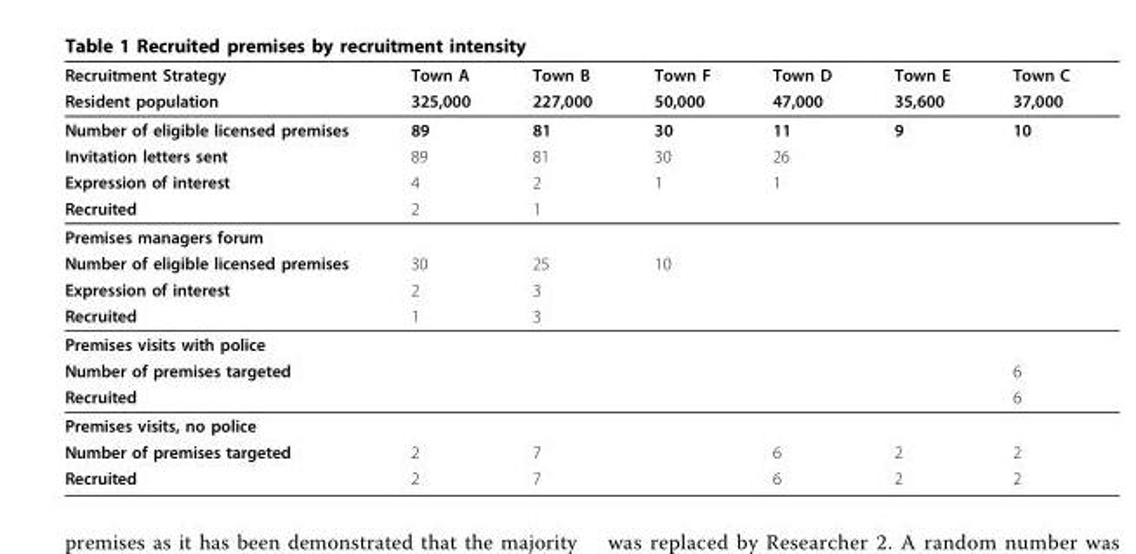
<table><thead><tr><td rowspan="2">Recruitment Strategy Resident population</td><td rowspan="2">Town A 325,000</td><td rowspan="2">Town B 227,000</td><td rowspan="2">Town F 50,000</td><td rowspan="2">Town D 47,000</td><td rowspan="2">Town E 35,600</td><td rowspan="2">Town C 37,000</td></tr><tr></tr></thead><tbody><tr><td>Number of eligible licensed premises</td><td>89</td><td>81</td><td>30</td><td>11</td><td>9</td><td>10</td></tr><tr><td>Invitation letters sent</td><td>89</td><td>81</td><td>30</td><td>26</td><td></td><td></td></tr><tr><td>Expression of interest</td><td>4</td><td>2</td><td>1</td><td>1</td><td></td><td></td></tr><tr><td>Recruited</td><td>2</td><td>1</td><td></td><td></td><td></td><td></td></tr><tr><td colspan="7">Premises managers forum</td></tr><tr><td>Number of eligible licensed premises</td><td>30</td><td>25</td><td>10</td><td></td><td></td><td></td></tr><tr><td>Expression of interest</td><td>2</td><td>3</td><td></td><td></td><td></td><td></td></tr><tr><td>Recruited</td><td>1</td><td>3</td><td></td><td></td><td></td><td></td></tr><tr><td colspan="7">Premises visits with police</td></tr><tr><td>Number of premises targeted</td><td></td><td></td><td></td><td></td><td></td><td>6</td></tr><tr><td>Recruited</td><td></td><td></td><td></td><td></td><td></td><td>6</td></tr><tr><td colspan="7">Premises visits, no police</td></tr><tr><td>Number of premises targeted</td><td>2</td><td>7</td><td></td><td>6</td><td>2</td><td>2</td></tr><tr><td>Recruited</td><td>2</td><td>7</td><td></td><td>6</td><td>2</td><td>2</td></tr></tbody></table>